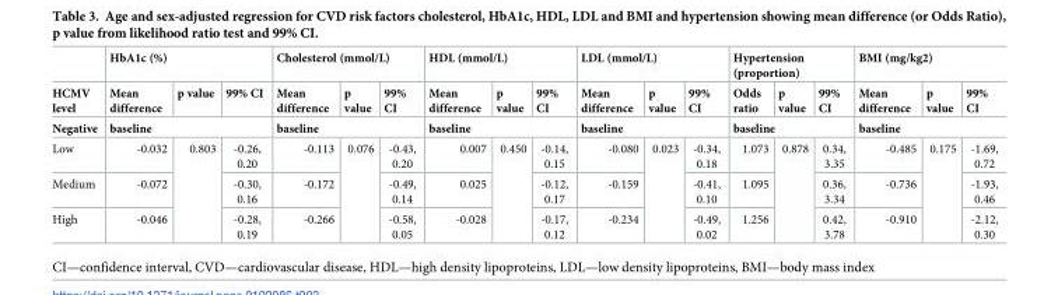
<table><thead><tr><td rowspan="3">HCMV level Negative</td><td colspan="3">HbA1c (%)</td><td colspan="3">Cholesterol (mmol/L)</td><td colspan="3">HDL (mmol/L)</td><td colspan="3">LDL (mmol/L)</td><td colspan="3">Hypertension (proportion)</td><td colspan="3">BMI (mg/kg2)</td></tr><tr><td>Mean difference</td><td>p value</td><td>99% CI</td><td>Mean difference</td><td>p value</td><td>99% CI</td><td>Mean difference</td><td>p value</td><td>99% CI</td><td>Mean difference</td><td>p value</td><td>99% CI</td><td>Odds ratio</td><td>p value</td><td>99% CI</td><td>Mean difference</td><td>p value</td><td>99% CI</td></tr><tr><td colspan="3">baseline</td><td colspan="3">baseline</td><td colspan="3">baseline</td><td colspan="3">baseline</td><td colspan="3">baseline</td><td colspan="3">baseline</td></tr></thead><tbody><tr><td>Low</td><td>-0.032</td><td rowspan="3">0.803</td><td>-0.26, 0.20</td><td>-0.113</td><td rowspan="3">0.076</td><td>-0.43, 0.20</td><td>0.007</td><td rowspan="3">0.450</td><td>-0.14, 0.15</td><td>-0.080</td><td rowspan="3">0.023</td><td>-0.34, 0.18</td><td>1.073</td><td rowspan="3">0.878</td><td>0.34, 3.35</td><td>-0.485</td><td rowspan="3">0.175</td><td>-1.69, 0.72</td></tr><tr><td>Medium</td><td>-0.072</td><td>-0.30, 0.16</td><td>-0.172</td><td>-0.49, 0.14</td><td>0.025</td><td>-0.12, 0.17</td><td>-0.159</td><td>-0.41, 0.10</td><td>1.095</td><td>0.36, 3.34</td><td>-0.736</td><td>-1.93, 0.46</td></tr><tr><td>High</td><td>-0.046</td><td>-0.28, 0.19</td><td>-0.266</td><td>-0.58, 0.05</td><td>-0.028</td><td>-0.17, 0.12</td><td>-0.234</td><td>-0.49, 0.02</td><td>1.256</td><td>0.42, 3.78</td><td>-0.910</td><td>-2.12, 0.30</td></tr></tbody></table>